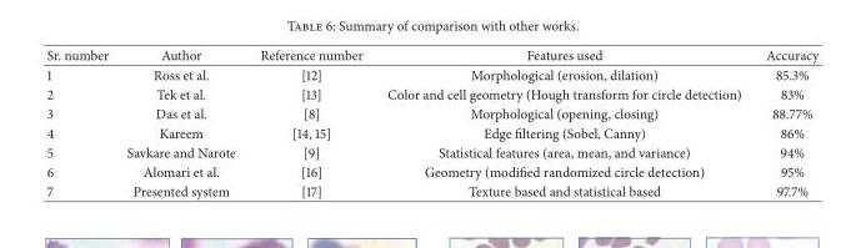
<table><thead><tr><td>Sr. number</td><td>Author</td><td>Reference number</td><td>Features used</td><td>Accuracy</td></tr></thead><tbody><tr><td>1</td><td>Ross et al.</td><td>[12]</td><td>Morphological (erosion, dilation)</td><td>85.3%</td></tr><tr><td>2</td><td>Tek et al.</td><td>[13]</td><td>Color and cell geometry (Hough transform for circle detection)</td><td>83%</td></tr><tr><td>3</td><td>Das et al.</td><td>[8]</td><td>Morphological (opening, closing)</td><td>88.77%</td></tr><tr><td>4</td><td>Kareem</td><td>[14, 15]</td><td>Edge filtering (Sobel, Canny)</td><td>86%</td></tr><tr><td>5</td><td>Savkare and Narote</td><td>[9]</td><td>Statistical features (area, mean, and variance)</td><td>94%</td></tr><tr><td>6</td><td>Alomari et al.</td><td>[16]</td><td>Geometry (modified randomized circle detection)</td><td>95%</td></tr><tr><td>7</td><td>Presented system</td><td>[17]</td><td>Texture based and statistical based</td><td>97.7%</td></tr></tbody></table>